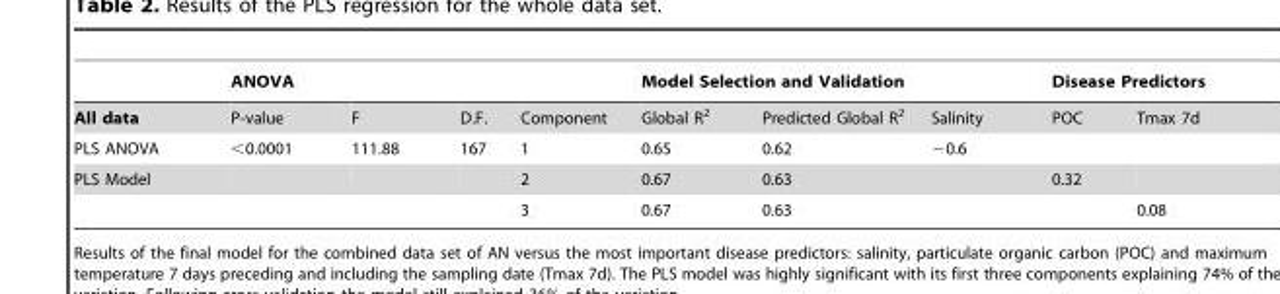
<table><thead><tr><td rowspan="2">All data</td><td rowspan="2">ANOVA P-value</td><td rowspan="2">F</td><td rowspan="2">D.F.</td><td rowspan="2">Component</td><td colspan="3">Model Selection and Validation</td><td colspan="2">Disease Predictors</td></tr><tr><td>Global R<sup>2</sup></td><td>Predicted Global R<sup>2</sup></td><td>Salinity</td><td>POC</td><td>Tmax 7d</td></tr></thead><tbody><tr><td>PLS ANOVA</td><td>&lt;0.0001</td><td>111.88</td><td>167</td><td>1</td><td>0.65</td><td>0.62</td><td>−0.6</td><td></td><td></td></tr><tr><td rowspan="2">PLS Model</td><td></td><td></td><td></td><td>2</td><td>0.67</td><td>0.63</td><td></td><td>0.32</td><td></td></tr><tr><td></td><td></td><td></td><td>3</td><td>0.67</td><td>0.63</td><td></td><td></td><td>0.08</td></tr></tbody></table>